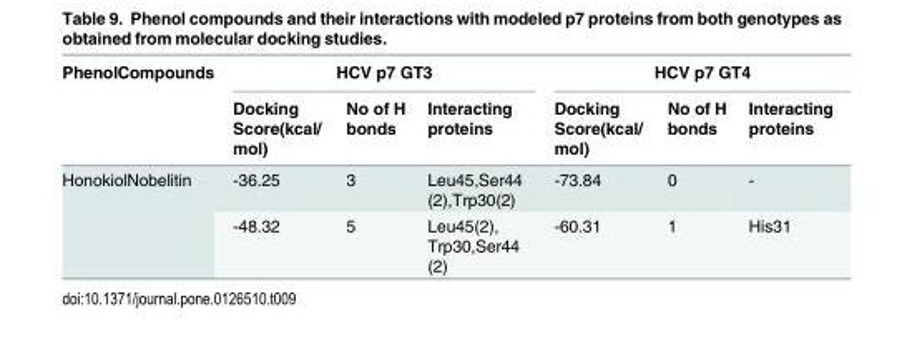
<table><thead><tr><td rowspan="2">PhenolCompounds</td><td colspan="3">HCV p7 GT3</td><td colspan="3">HCV p7 GT4</td></tr><tr><td>Docking Score(kcal/ mol)</td><td>No of H bonds</td><td>Interacting proteins</td><td>Docking Score(kcal/ mol)</td><td>No of H bonds</td><td>Interacting proteins</td></tr></thead><tbody><tr><td rowspan="2">HonokiolNobelitin</td><td>-36.25</td><td>3</td><td>Leu45,Ser44 (2),Trp30(2)</td><td>-73.84</td><td>0</td><td>-</td></tr><tr><td>-48.32</td><td>5</td><td>Leu45(2), Trp30,Ser44 (2)</td><td>-60.31</td><td>1</td><td>His31</td></tr></tbody></table>